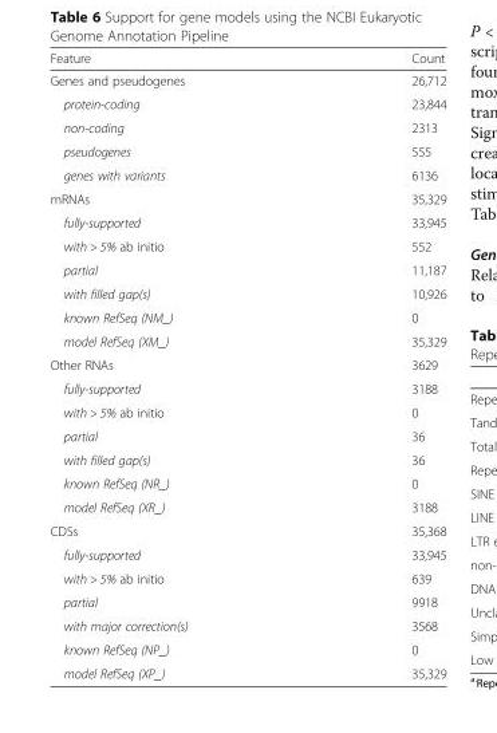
<table><thead><tr><td>Feature</td><td>Count</td></tr></thead><tbody><tr><td>Genes and pseudogenes</td><td>26,712</td></tr><tr><td>protein-coding</td><td>23,844</td></tr><tr><td>non-coding</td><td>2313</td></tr><tr><td>pseudogenes</td><td>555</td></tr><tr><td>genes with variants</td><td>6136</td></tr><tr><td>mRNAs</td><td>35,329</td></tr><tr><td>fully-supported</td><td>33,945</td></tr><tr><td>with &gt; 5% ab initio</td><td>552</td></tr><tr><td>partial</td><td>11,187</td></tr><tr><td>with filled gap(s)</td><td>10,926</td></tr><tr><td>known RefSeq (NM_)</td><td>0</td></tr><tr><td>model RefSeq (XM_)</td><td>35,329</td></tr><tr><td>Other RNAs</td><td>3629</td></tr><tr><td>fully-supported</td><td>3188</td></tr><tr><td>with &gt; 5% ab initio</td><td>0</td></tr><tr><td>partial</td><td>36</td></tr><tr><td>with filled gap(s)</td><td>36</td></tr><tr><td>known RefSeq (NR_)</td><td>0</td></tr><tr><td>model RefSeq (XR_)</td><td>3188</td></tr><tr><td>CDSs</td><td>35,368</td></tr><tr><td>fully-supported</td><td>33,945</td></tr><tr><td>with &gt; 5% ab initio</td><td>639</td></tr><tr><td>partial</td><td>9918</td></tr><tr><td>with major correction(s)</td><td>3568</td></tr><tr><td>known RefSeq (NP_)</td><td>0</td></tr><tr><td>model RefSeq (XP_)</td><td>35,329</td></tr></tbody></table>